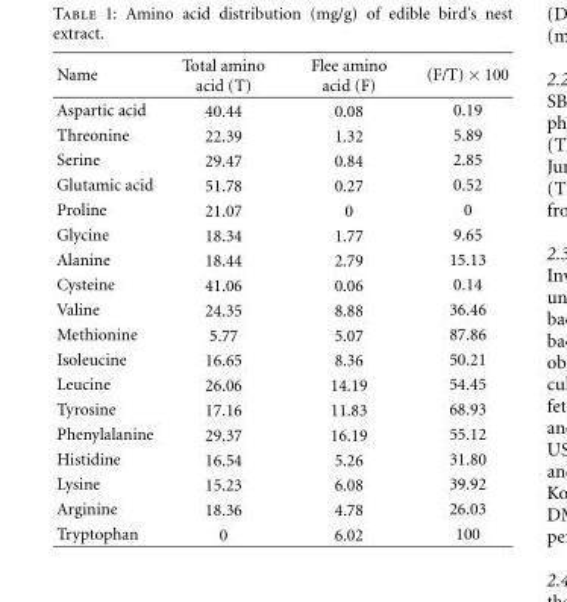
<table><thead><tr><td>Name</td><td>Total amino acid (T)</td><td>Flee amino acid (F)</td><td>(F/T) × 100</td></tr></thead><tbody><tr><td>Aspartic acid</td><td>40.44</td><td>0.08</td><td>0.19</td></tr><tr><td>Threonine</td><td>22.39</td><td>1.32</td><td>5.89</td></tr><tr><td>Serine</td><td>29.47</td><td>0.84</td><td>2.85</td></tr><tr><td>Glutamic acid</td><td>51.78</td><td>0.27</td><td>0.52</td></tr><tr><td>Proline</td><td>21.07</td><td>0</td><td>0</td></tr><tr><td>Glycine</td><td>18.34</td><td>1.77</td><td>9.65</td></tr><tr><td>Alanine</td><td>18.44</td><td>2.79</td><td>15.13</td></tr><tr><td>Cysteine</td><td>41.06</td><td>0.06</td><td>0.14</td></tr><tr><td>Valine</td><td>24.35</td><td>8.88</td><td>36.46</td></tr><tr><td>Methionine</td><td>5.77</td><td>5.07</td><td>87.86</td></tr><tr><td>Isoleucine</td><td>16.65</td><td>8.36</td><td>50.21</td></tr><tr><td>Leucine</td><td>26.06</td><td>14.19</td><td>54.45</td></tr><tr><td>Tyrosine</td><td>17.16</td><td>11.83</td><td>68.93</td></tr><tr><td>Phenylalanine</td><td>29.37</td><td>16.19</td><td>55.12</td></tr><tr><td>Histidine</td><td>16.54</td><td>5.26</td><td>31.80</td></tr><tr><td>Lysine</td><td>15.23</td><td>6.08</td><td>39.92</td></tr><tr><td>Arginine</td><td>18.36</td><td>4.78</td><td>26.03</td></tr><tr><td>Tryptophan</td><td>0</td><td>6.02</td><td>100</td></tr></tbody></table>